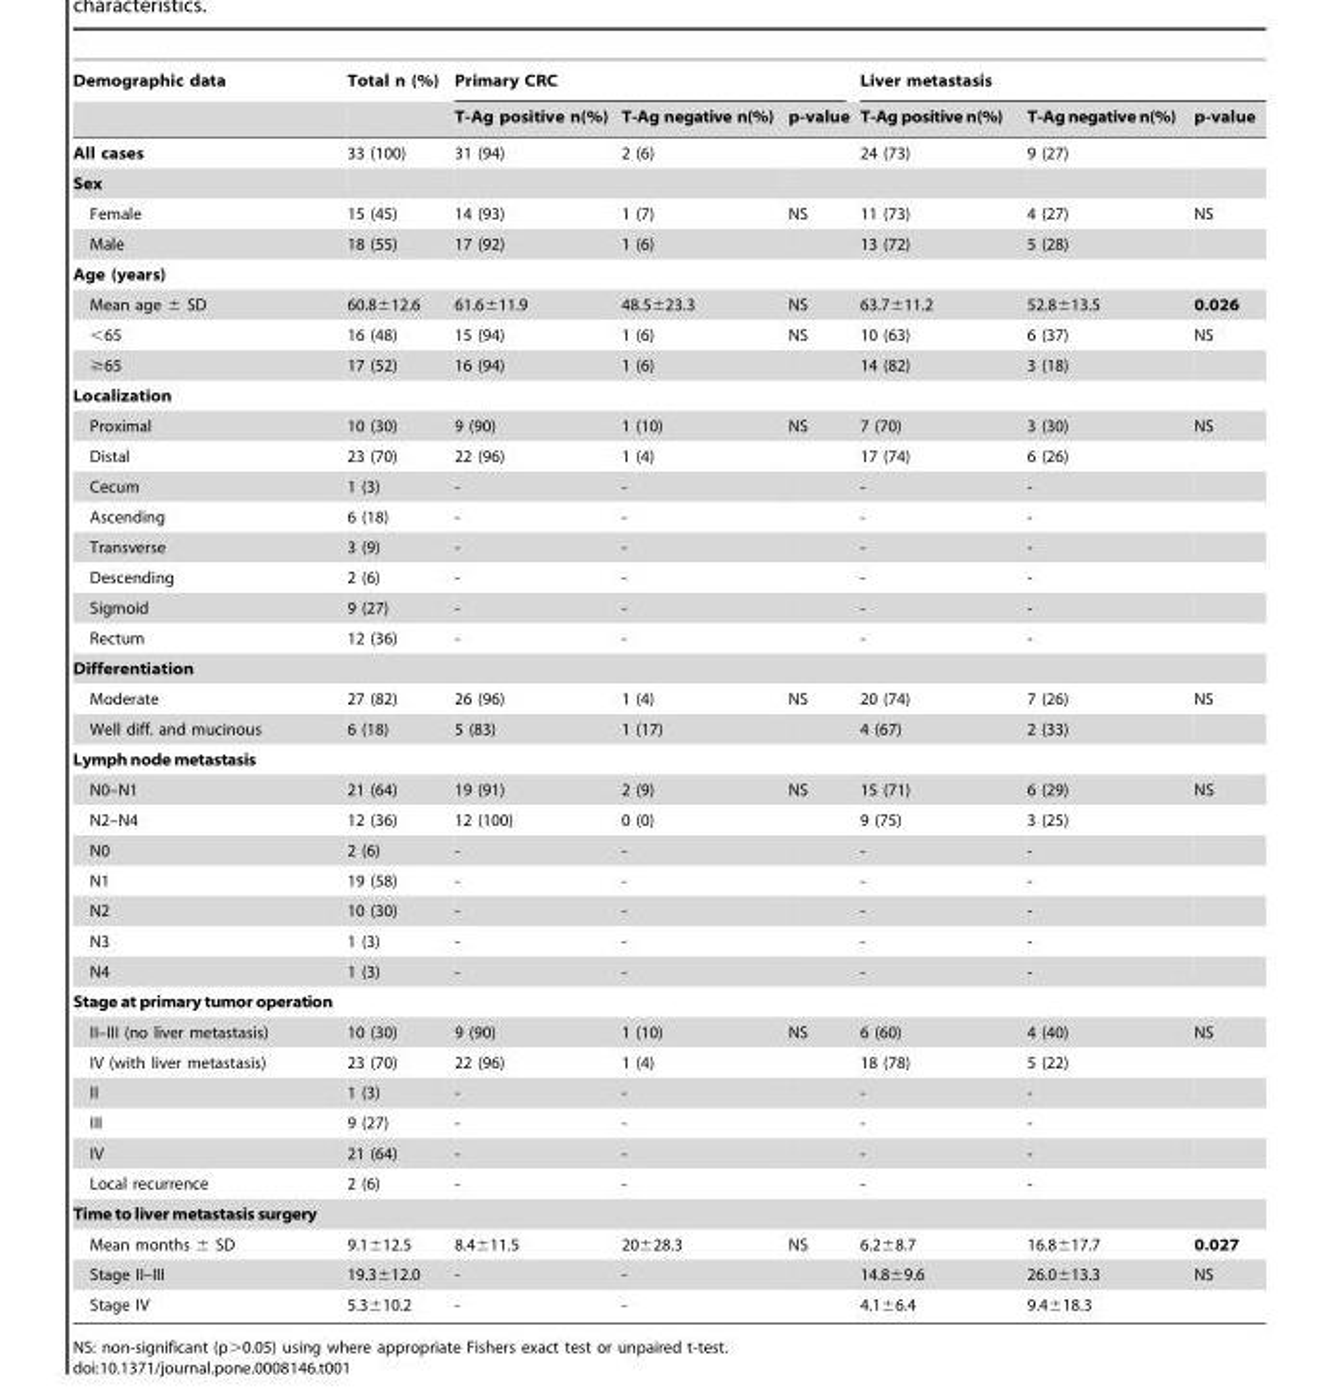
<table><thead><tr><td rowspan="2">Demographic data</td><td rowspan="2">Total n (%)</td><td colspan="3">Primary CRC</td><td colspan="3">Liver metastasis</td></tr><tr><td>T-Ag positive n(%)</td><td>T-Ag negative n(%)</td><td>p-value</td><td>T-Ag positive n(%)</td><td>T-Ag negative n(%)</td><td>p-value</td></tr></thead><tbody><tr><td>All cases</td><td>33 (100)</td><td>31 (94)</td><td>2 (6)</td><td></td><td>24 (73)</td><td>9 (27)</td><td></td></tr><tr><td colspan="8">Sex</td></tr><tr><td>Female</td><td>15 (45)</td><td>14 (93)</td><td>1 (7)</td><td>NS</td><td>11 (73)</td><td>4 (27)</td><td>NS</td></tr><tr><td>Male</td><td>18 (55)</td><td>17 (92)</td><td>1 (6)</td><td></td><td>13 (72)</td><td>5 (28)</td><td></td></tr><tr><td colspan="8">Age (years)</td></tr><tr><td>Mean age ± SD</td><td>60.8±12.6</td><td>61.6±11.9</td><td>48.5±23.3</td><td>NS</td><td>63.7±11.2</td><td>52.8±13.5</td><td>0.026</td></tr><tr><td>&lt;65</td><td>16 (48)</td><td>15 (94)</td><td>1 (6)</td><td>NS</td><td>10 (63)</td><td>6 (37)</td><td>NS</td></tr><tr><td>≥65</td><td>17 (52)</td><td>16 (94)</td><td>1 (6)</td><td></td><td>14 (82)</td><td>3 (18)</td><td></td></tr><tr><td colspan="8">Localization</td></tr><tr><td>Proximal</td><td>10 (30)</td><td>9 (90)</td><td>1 (10)</td><td>NS</td><td>7 (70)</td><td>3 (30)</td><td>NS</td></tr><tr><td>Distal</td><td>23 (70)</td><td>22 (96)</td><td>1 (4)</td><td></td><td>17 (74)</td><td>6 (26)</td><td></td></tr><tr><td>Cecum</td><td>1 (3)</td><td>-</td><td>-</td><td></td><td>-</td><td>-</td><td></td></tr><tr><td>Ascending</td><td>6 (18)</td><td>-</td><td>-</td><td></td><td>-</td><td>-</td><td></td></tr><tr><td>Transverse</td><td>3 (9)</td><td>-</td><td>-</td><td></td><td>-</td><td>-</td><td></td></tr><tr><td>Descending</td><td>2 (6)</td><td>-</td><td>-</td><td></td><td>-</td><td>-</td><td></td></tr><tr><td>Sigmoid</td><td>9 (27)</td><td>-</td><td>-</td><td></td><td>-</td><td>-</td><td></td></tr><tr><td>Rectum</td><td>12 (36)</td><td>-</td><td>-</td><td></td><td>-</td><td>-</td><td></td></tr><tr><td colspan="8">Differentiation</td></tr><tr><td>Moderate</td><td>27 (82)</td><td>26 (96)</td><td>1 (4)</td><td>NS</td><td>20 (74)</td><td>7 (26)</td><td>NS</td></tr><tr><td>Well diff. and mucinous</td><td>6 (18)</td><td>5 (83)</td><td>1 (17)</td><td></td><td>4 (67)</td><td>2 (33)</td><td></td></tr><tr><td colspan="8">Lymph node metastasis</td></tr><tr><td>N0–N1</td><td>21 (64)</td><td>19 (91)</td><td>2 (9)</td><td>NS</td><td>15 (71)</td><td>6 (29)</td><td>NS</td></tr><tr><td>N2–N4</td><td>12 (36)</td><td>12 (100)</td><td>0 (0)</td><td></td><td>9 (75)</td><td>3 (25)</td><td></td></tr><tr><td>N0</td><td>2 (6)</td><td>-</td><td>-</td><td></td><td>-</td><td>-</td><td></td></tr><tr><td>N1</td><td>19 (58)</td><td>-</td><td>-</td><td></td><td>-</td><td>-</td><td></td></tr><tr><td>N2</td><td>10 (30)</td><td>-</td><td>-</td><td></td><td>-</td><td>-</td><td></td></tr><tr><td>N3</td><td>1 (3)</td><td>-</td><td>-</td><td></td><td>-</td><td>-</td><td></td></tr><tr><td>N4</td><td>1 (3)</td><td>-</td><td>-</td><td></td><td>-</td><td>-</td><td></td></tr><tr><td colspan="8">Stage at primary tumor operation</td></tr><tr><td>II–III (no liver metastasis)</td><td>10 (30)</td><td>9 (90)</td><td>1 (10)</td><td>NS</td><td>6 (60)</td><td>4 (40)</td><td>NS</td></tr><tr><td>IV (with liver metastasis)</td><td>23 (70)</td><td>22 (96)</td><td>1 (4)</td><td></td><td>18 (78)</td><td>5 (22)</td><td></td></tr><tr><td>II</td><td>1 (3)</td><td>-</td><td>-</td><td></td><td>-</td><td>-</td><td></td></tr><tr><td>III</td><td>9 (27)</td><td>-</td><td>-</td><td></td><td>-</td><td>-</td><td></td></tr><tr><td>IV</td><td>21 (64)</td><td>-</td><td>-</td><td></td><td>-</td><td>-</td><td></td></tr><tr><td>Local recurrence</td><td>2 (6)</td><td>-</td><td>-</td><td></td><td>-</td><td>-</td><td></td></tr><tr><td colspan="8">Time to liver metastasis surgery</td></tr><tr><td>Mean months ± SD</td><td>9.1±12.5</td><td>8.4±11.5</td><td>20±28.3</td><td>NS</td><td>6.2±8.7</td><td>16.8±17.7</td><td>0.027</td></tr><tr><td>Stage II–III</td><td>19.3±12.0</td><td>-</td><td>-</td><td></td><td>14.8±9.6</td><td>26.0±13.3</td><td>NS</td></tr><tr><td>Stage IV</td><td>5.3±10.2</td><td>-</td><td>-</td><td></td><td>4.1±6.4</td><td>9.4±18.3</td><td></td></tr></tbody></table>